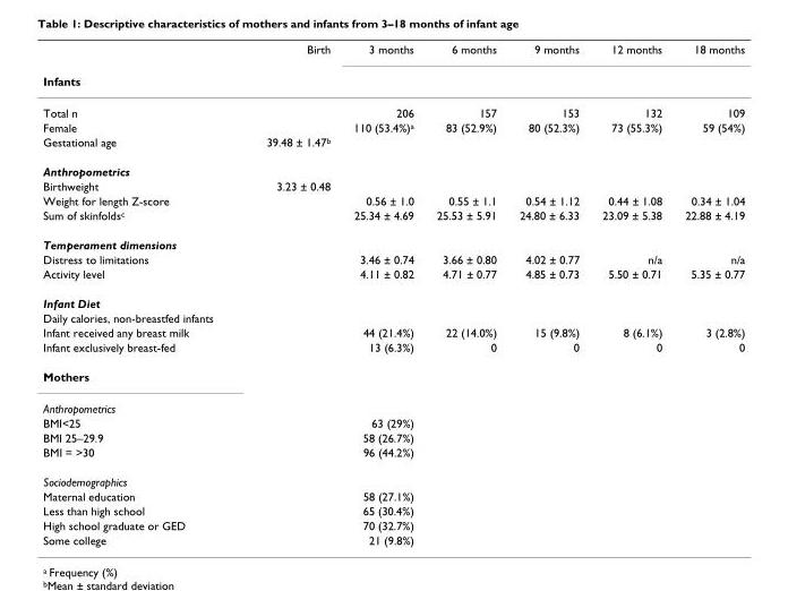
<table><thead><tr><td rowspan="2">Infants</td><td rowspan="2">Birth</td><td rowspan="2">3 months</td><td rowspan="2">6 months</td><td rowspan="2">9 months</td><td rowspan="2">12 months</td><td rowspan="2">18 months</td></tr><tr></tr></thead><tbody><tr><td>Total n</td><td></td><td>206</td><td>157</td><td>153</td><td>132</td><td>109</td></tr><tr><td>Female</td><td></td><td>110 (53.4%)<sup>a</sup></td><td>83 (52.9%)</td><td>80 (52.3%)</td><td>73 (55.3%)</td><td>59 (54%)</td></tr><tr><td>Gestational age</td><td>39.48 ± 1.47<sup>b</sup></td><td></td><td></td><td></td><td></td><td></td></tr><tr><td colspan="7">Anthropometrics</td></tr><tr><td>Birthweight</td><td>3.23 ± 0.48</td><td></td><td></td><td></td><td></td><td></td></tr><tr><td>Weight for length Z-score</td><td></td><td>0.56 ± 1.0</td><td>0.55 ± 1.1</td><td>0.54 ± 1.12</td><td>0.44 ± 1.08</td><td>0.34 ± 1.04</td></tr><tr><td>Sum of skinfolds<sup>c</sup></td><td></td><td>25.34 ± 4.69</td><td>25.53 ± 5.91</td><td>24.80 ± 6.33</td><td>23.09 ± 5.38</td><td>22.88 ± 4.19</td></tr><tr><td colspan="7">Temperament dimensions</td></tr><tr><td>Distress to limitations</td><td></td><td>3.46 ± 0.74</td><td>3.66 ± 0.80</td><td>4.02 ± 0.77</td><td>n/a</td><td>n/a</td></tr><tr><td>Activity level</td><td></td><td>4.11 ± 0.82</td><td>4.71 ± 0.77</td><td>4.85 ± 0.73</td><td>5.50 ± 0.71</td><td>5.35 ± 0.77</td></tr><tr><td colspan="7">Infant Diet</td></tr><tr><td colspan="7">Daily calories, non-breastfed infants</td></tr><tr><td>Infant received any breast milk</td><td></td><td>44 (21.4%)</td><td>22 (14.0%)</td><td>15 (9.8%)</td><td>8 (6.1%)</td><td>3 (2.8%)</td></tr><tr><td>Infant exclusively breast-fed</td><td></td><td>13 (6.3%)</td><td>0</td><td>0</td><td>0</td><td>0</td></tr><tr><td colspan="7">Mothers</td></tr><tr><td colspan="7">Anthropometrics</td></tr><tr><td>BMI&lt;25</td><td></td><td>63 (29%)</td><td></td><td></td><td></td><td></td></tr><tr><td>BMI 25–29.9</td><td></td><td>58 (26.7%)</td><td></td><td></td><td></td><td></td></tr><tr><td>BMI = &gt;30</td><td></td><td>96 (44.2%)</td><td></td><td></td><td></td><td></td></tr><tr><td colspan="7">Sociodemographics</td></tr><tr><td>Maternal education</td><td></td><td>58 (27.1%)</td><td></td><td></td><td></td><td></td></tr><tr><td>Less than high school</td><td></td><td>65 (30.4%)</td><td></td><td></td><td></td><td></td></tr><tr><td>High school graduate or GED</td><td></td><td>70 (32.7%)</td><td></td><td></td><td></td><td></td></tr><tr><td>Some college</td><td></td><td>21 (9.8%)</td><td></td><td></td><td></td><td></td></tr></tbody></table>